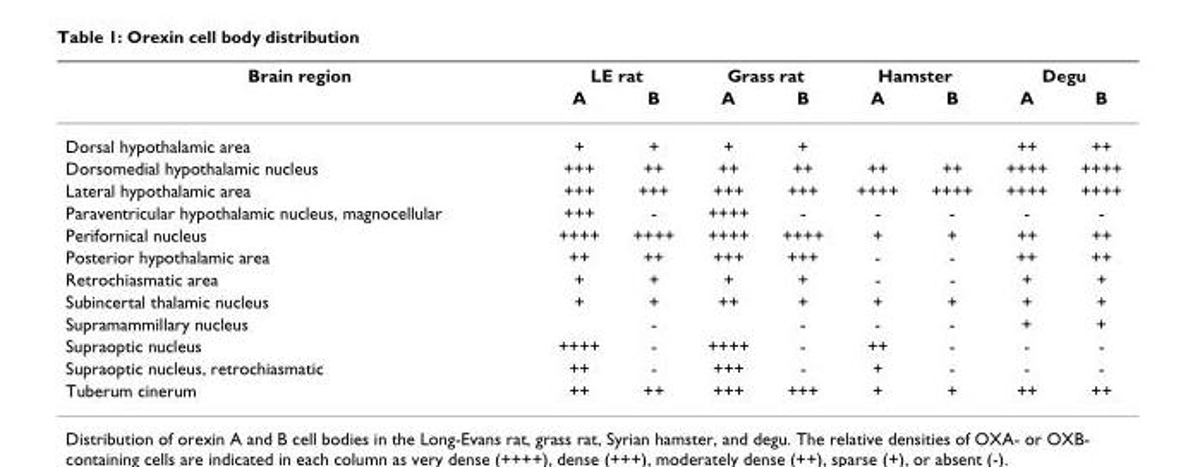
<table><thead><tr><td rowspan="2">Brain region</td><td colspan="2">LE rat</td><td colspan="2">Grass rat</td><td colspan="2">Hamster</td><td colspan="2">Degu</td></tr><tr><td>A</td><td>B</td><td>A</td><td>B</td><td>A</td><td>B</td><td>A</td><td>B</td></tr></thead><tbody><tr><td>Dorsal hypothalamic area</td><td>+</td><td>+</td><td>+</td><td>+</td><td></td><td></td><td>++</td><td>++</td></tr><tr><td>Dorsomedial hypothalamic nucleus</td><td>+++</td><td>++</td><td>++</td><td>++</td><td>++</td><td>++</td><td>++++</td><td>++++</td></tr><tr><td>Lateral hypothalamic area</td><td>+++</td><td>+++</td><td>+++</td><td>+++</td><td>++++</td><td>++++</td><td>++++</td><td>++++</td></tr><tr><td>Paraventricular hypothalamic nucleus, magnocellular</td><td>+++</td><td>-</td><td>++++</td><td>-</td><td>-</td><td>-</td><td>-</td><td>-</td></tr><tr><td>Perifornical nucleus</td><td>++++</td><td>++++</td><td>++++</td><td>++++</td><td>+</td><td>+</td><td>++</td><td>++</td></tr><tr><td>Posterior hypothalamic area</td><td>++</td><td>++</td><td>+++</td><td>+++</td><td>-</td><td>-</td><td>++</td><td>++</td></tr><tr><td>Retrochiasmatic area</td><td>+</td><td>+</td><td>+</td><td>+</td><td>-</td><td>-</td><td>+</td><td>+</td></tr><tr><td>Subincertal thalamic nucleus</td><td>+</td><td>+</td><td>++</td><td>+</td><td>+</td><td>+</td><td>+</td><td>+</td></tr><tr><td>Supramammillary nucleus</td><td></td><td>-</td><td></td><td>-</td><td>-</td><td>-</td><td>+</td><td>+</td></tr><tr><td>Supraoptic nucleus</td><td>++++</td><td>-</td><td>++++</td><td>-</td><td>++</td><td>-</td><td>-</td><td>-</td></tr><tr><td>Supraoptic nucleus, retrochiasmatic</td><td>++</td><td>-</td><td>+++</td><td>-</td><td>+</td><td>-</td><td>-</td><td>-</td></tr><tr><td>Tuberum cinerum</td><td>++</td><td>++</td><td>+++</td><td>+++</td><td>+</td><td>+</td><td>++</td><td>++</td></tr></tbody></table>